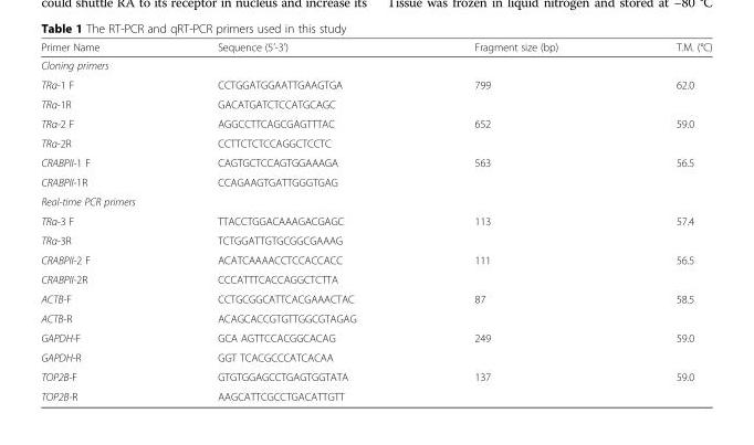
<table><thead><tr><td>Primer Name</td><td>Sequence (5’-3’)</td><td>Fragment size (bp)</td><td>T.M. (°C)</td></tr></thead><tbody><tr><td colspan="4">Cloning primers</td></tr><tr><td>TRα-1 F</td><td>CCTGGATGGAATTGAAGTGA</td><td>799</td><td>62.0</td></tr><tr><td>TRα-1R</td><td>GACATGATCTCCATGCAGC</td><td></td><td></td></tr><tr><td>TRα-2 F</td><td>AGGCCTTCAGCGAGTTTAC</td><td>652</td><td>59.0</td></tr><tr><td>TRα-2R</td><td>CCTTCTCTCCAGGCTCCTC</td><td></td><td></td></tr><tr><td>CRABPII-1 F</td><td>CAGTGCTCCAGTGGAAAGA</td><td>563</td><td>56.5</td></tr><tr><td>CRABPII-1R</td><td>CCAGAAGTGATTGGGTGAG</td><td></td><td></td></tr><tr><td colspan="4">Real-time PCR primers</td></tr><tr><td>TRα-3 F</td><td>TTACCTGGACAAAGACGAGC</td><td>113</td><td>57.4</td></tr><tr><td>TRα-3R</td><td>TCTGGATTGTGCGGCGAAAG</td><td></td><td></td></tr><tr><td>CRABPII-2 F</td><td>ACATCAAAACCTCCACCACC</td><td>111</td><td>56.5</td></tr><tr><td>CRABPII-2R</td><td>CCCATTTCACCAGGCTCTTA</td><td></td><td></td></tr><tr><td>ACTB-F</td><td>CCTGCGGCATTCACGAAACTAC</td><td>87</td><td>58.5</td></tr><tr><td>ACTB-R</td><td>ACAGCACCGTGTTGGCGTAGAG</td><td></td><td></td></tr><tr><td>GAPDH-F</td><td>GCA AGTTCCACGGCACAG</td><td>249</td><td>59.0</td></tr><tr><td>GAPDH-R</td><td>GGT TCACGCCCATCACAA</td><td></td><td></td></tr><tr><td>TOP2B-F</td><td>GTGTGGAGCCTGAGTGGTATA</td><td>137</td><td>59.0</td></tr><tr><td>TOP2B-R</td><td>AAGCATTCGCCTGACATTGTT</td><td></td><td></td></tr></tbody></table>